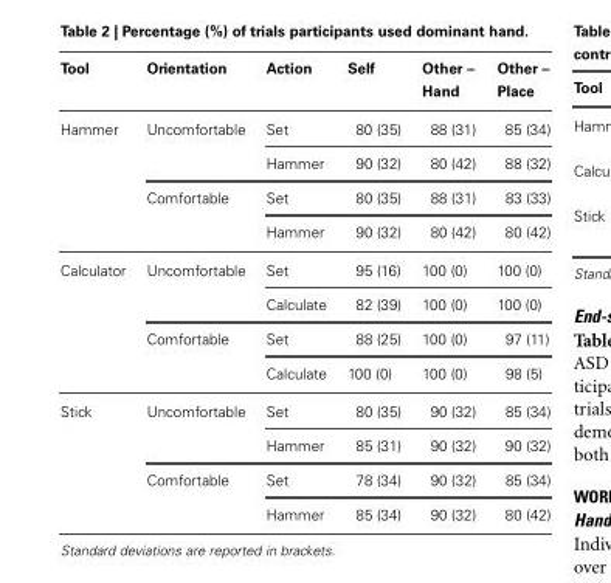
<table><thead><tr><td>Tool</td><td>Orientation</td><td>Action</td><td>Self</td><td>Other – Hand</td><td>Other – Place</td></tr></thead><tbody><tr><td rowspan="4">Hammer</td><td>Uncomfortable</td><td>Set</td><td>80 (35)</td><td>88 (31)</td><td>85 (34)</td></tr><tr><td></td><td>Hammer</td><td>90 (32)</td><td>80 (42)</td><td>88 (32)</td></tr><tr><td>Comfortable</td><td>Set</td><td>80 (35)</td><td>88 (31)</td><td>83 (33)</td></tr><tr><td></td><td>Hammer</td><td>90 (32)</td><td>80 (42)</td><td>80 (42)</td></tr><tr><td rowspan="4">Calculator</td><td>Uncomfortable</td><td>Set</td><td>95 (16)</td><td>100 (0)</td><td>100 (0)</td></tr><tr><td></td><td>Calculate</td><td>82 (39)</td><td>100 (0)</td><td>100 (0)</td></tr><tr><td>Comfortable</td><td>Set</td><td>88 (25)</td><td>100 (0)</td><td>97 (11)</td></tr><tr><td></td><td>Calculate</td><td>100 (0)</td><td>100 (0)</td><td>98 (5)</td></tr><tr><td rowspan="4">Stick</td><td>Uncomfortable</td><td>Set</td><td>80 (35)</td><td>90 (32)</td><td>85 (34)</td></tr><tr><td></td><td>Hammer</td><td>85 (31)</td><td>90 (32)</td><td>90 (32)</td></tr><tr><td>Comfortable</td><td>Set</td><td>78 (34)</td><td>90 (32)</td><td>85 (34)</td></tr><tr><td></td><td>Hammer</td><td>85 (34)</td><td>90 (32)</td><td>80 (42)</td></tr></tbody></table>